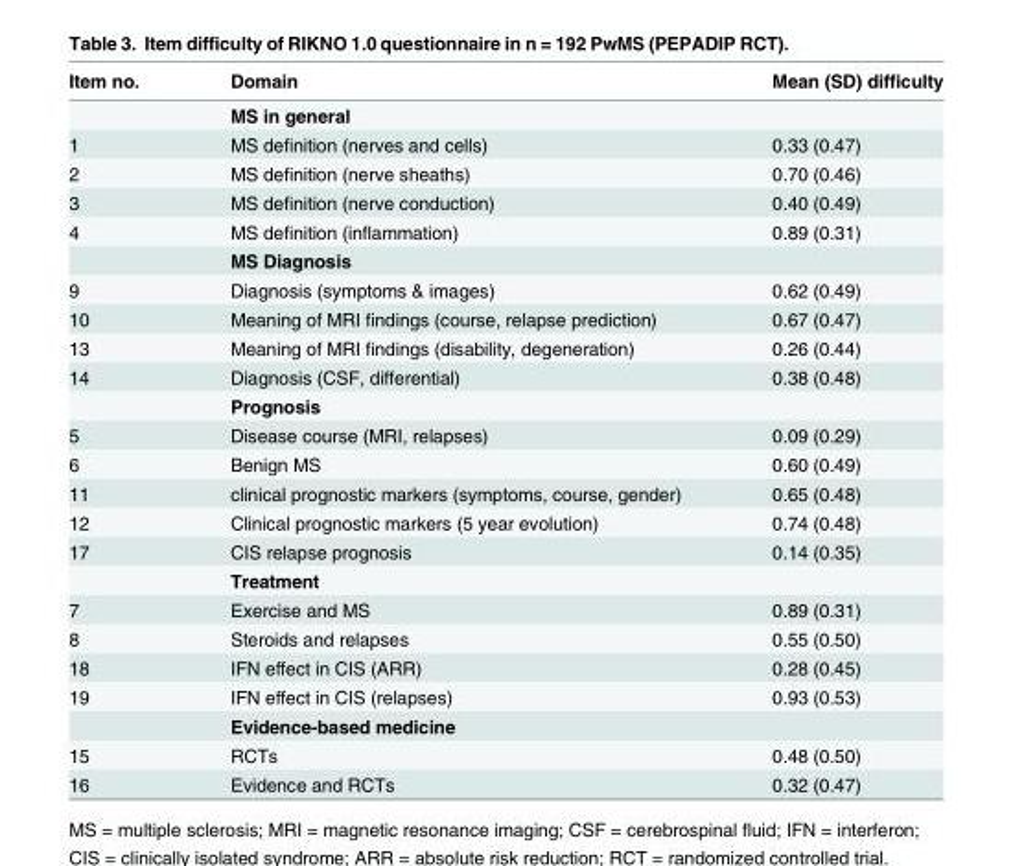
<table><thead><tr><td>Item no.</td><td>Domain</td><td>Mean (SD) difficulty</td></tr></thead><tbody><tr><td></td><td>MS in general</td><td></td></tr><tr><td>1</td><td>MS definition (nerves and cells)</td><td>0.33 (0.47)</td></tr><tr><td>2</td><td>MS definition (nerve sheaths)</td><td>0.70 (0.46)</td></tr><tr><td>3</td><td>MS definition (nerve conduction)</td><td>0.40 (0.49)</td></tr><tr><td rowspan="2">4</td><td>MS definition (inflammation)</td><td>0.89 (0.31)</td></tr><tr><td>MS Diagnosis</td><td></td></tr><tr><td>9</td><td>Diagnosis (symptoms &amp; images)</td><td>0.62 (0.49)</td></tr><tr><td>10</td><td>Meaning of MRI findings (course, relapse prediction)</td><td>0.67 (0.47)</td></tr><tr><td>13</td><td>Meaning of MRI findings (disability, degeneration)</td><td>0.26 (0.44)</td></tr><tr><td rowspan="2">14</td><td>Diagnosis (CSF, differential)</td><td>0.38 (0.48)</td></tr><tr><td>Prognosis</td><td></td></tr><tr><td>5</td><td>Disease course (MRI, relapses)</td><td>0.09 (0.29)</td></tr><tr><td>6</td><td>Benign MS</td><td>0.60 (0.49)</td></tr><tr><td>11</td><td>clinical prognostic markers (symptoms, course, gender)</td><td>0.65 (0.48)</td></tr><tr><td>12</td><td>Clinical prognostic markers (5 year evolution)</td><td>0.74 (0.48)</td></tr><tr><td rowspan="2">17</td><td>CIS relapse prognosis</td><td>0.14 (0.35)</td></tr><tr><td>Treatment</td><td></td></tr><tr><td>7</td><td>Exercise and MS</td><td>0.89 (0.31)</td></tr><tr><td>8</td><td>Steroids and relapses</td><td>0.55 (0.50)</td></tr><tr><td>18</td><td>IFN effect in CIS (ARR)</td><td>0.28 (0.45)</td></tr><tr><td rowspan="2">19</td><td>IFN effect in CIS (relapses)</td><td>0.93 (0.53)</td></tr><tr><td>Evidence-based medicine</td><td></td></tr><tr><td>15</td><td>RCTs</td><td>0.48 (0.50)</td></tr><tr><td>16</td><td>Evidence and RCTs</td><td>0.32 (0.47)</td></tr></tbody></table>